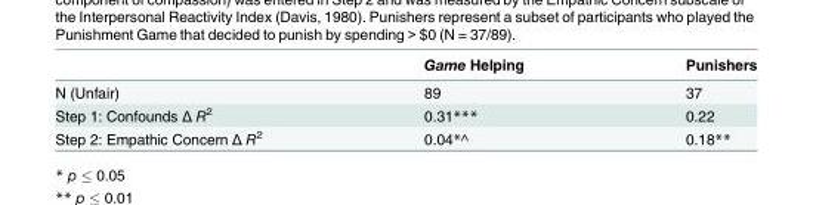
<table><thead><tr><td></td><td>Game Helping</td><td>Punishers</td></tr></thead><tbody><tr><td>N (Unfair)</td><td>89</td><td>37</td></tr><tr><td>Step 1: Confounds Δ R<sup>2</sup></td><td>0.31***</td><td>0.22</td></tr><tr><td>Step 2: Empathic Concern Δ R<sup>2</sup></td><td>0.04*^</td><td>0.18**</td></tr></tbody></table>